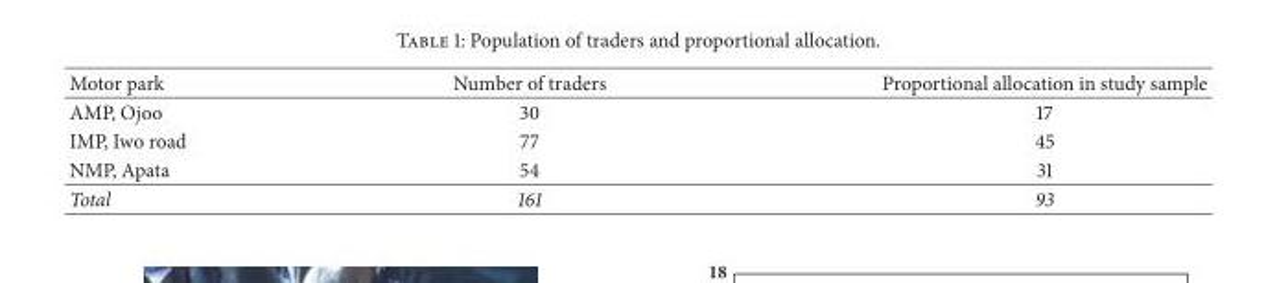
<table><thead><tr><td>Motor park</td><td>Number of traders</td><td>Proportional allocation in study sample</td></tr></thead><tbody><tr><td>AMP, Ojoo</td><td>30</td><td>17</td></tr><tr><td>IMP, Iwo road</td><td>77</td><td>45</td></tr><tr><td>NMP, Apata</td><td>54</td><td>31</td></tr><tr><td>Total</td><td>161</td><td>93</td></tr></tbody></table>